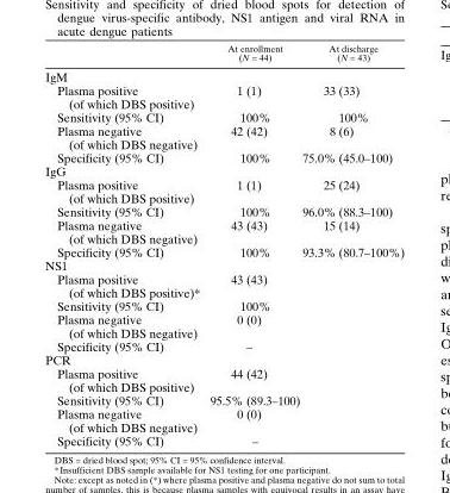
<table><thead><tr><td></td><td>At enrollment (N = 44)</td><td>At discharge (N = 43)</td></tr></thead><tbody><tr><td colspan="3">IgM</td></tr><tr><td>Plasma positive (of which DBS positive)</td><td>1 (1)</td><td>33 (33)</td></tr><tr><td>Sensitivity (95% CI)</td><td>100%</td><td>100%</td></tr><tr><td>Plasma negative (of which DBS negative)</td><td>42 (42)</td><td>8 (6)</td></tr><tr><td>Specificity (95% CI)</td><td>100%</td><td>75.0% (45.0–100)</td></tr><tr><td colspan="3">IgG</td></tr><tr><td>Plasma positive (of which DBS positive)</td><td>1 (1)</td><td>25 (24)</td></tr><tr><td>Sensitivity (95% CI)</td><td>100%</td><td>96.0% (88.3–100)</td></tr><tr><td>Plasma negative (of which DBS negative)</td><td>43 (43)</td><td>15 (14)</td></tr><tr><td>Specificity (95% CI)</td><td>100%</td><td>93.3% (80.7–100%)</td></tr><tr><td colspan="3">NS1</td></tr><tr><td>Plasma positive (of which DBS positive)*</td><td>43 (43)</td><td></td></tr><tr><td>Sensitivity (95% CI)</td><td>100%</td><td></td></tr><tr><td>Plasma negative (of which DBS negative)</td><td>0 (0)</td><td></td></tr><tr><td>Specificity (95% CI)</td><td>–</td><td></td></tr><tr><td colspan="3">PCR</td></tr><tr><td>Plasma positive (of which DBS positive)</td><td>44 (42)</td><td></td></tr><tr><td>Sensitivity (95% CI)</td><td>95.5% (89.3–100)</td><td></td></tr><tr><td>Plasma negative (of which DBS negative)</td><td>0 (0)</td><td></td></tr><tr><td>Specificity (95% CI)</td><td>–</td><td></td></tr></tbody></table>